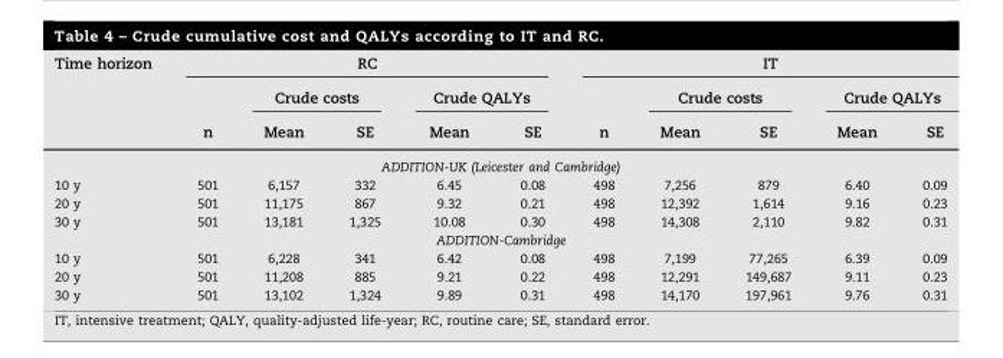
<table><thead><tr><td rowspan="3">Time horizon</td><td colspan="5">RC</td><td colspan="5">IT</td></tr><tr><td rowspan="2">n</td><td colspan="2">Crude costs</td><td colspan="2">Crude QALYs</td><td rowspan="2">n</td><td colspan="2">Crude costs</td><td colspan="2">Crude QALYs</td></tr><tr><td>Mean</td><td>SE</td><td>Mean</td><td>SE</td><td>Mean</td><td>SE</td><td>Mean</td><td>SE</td></tr></thead><tbody><tr><td colspan="11">ADDITION-UK (Leicester and Cambridge)</td></tr><tr><td>10 y</td><td>501</td><td>6,157</td><td>332</td><td>6.45</td><td>0.08</td><td>498</td><td>7,256</td><td>879</td><td>6.40</td><td>0.09</td></tr><tr><td>20 y</td><td>501</td><td>11,175</td><td>867</td><td>9.32</td><td>0.21</td><td>498</td><td>12,392</td><td>1,614</td><td>9.16</td><td>0.23</td></tr><tr><td>30 y</td><td>501</td><td>13,181</td><td>1,325</td><td>10.08</td><td>0.30</td><td>498</td><td>14,308</td><td>2,110</td><td>9.82</td><td>0.31</td></tr><tr><td colspan="11">ADDITION-Cambridge</td></tr><tr><td>10 y</td><td>501</td><td>6,228</td><td>341</td><td>6.42</td><td>0.08</td><td>498</td><td>7,199</td><td>77,265</td><td>6.39</td><td>0.09</td></tr><tr><td>20 y</td><td>501</td><td>11,208</td><td>885</td><td>9.21</td><td>0.22</td><td>498</td><td>12,291</td><td>149,687</td><td>9.11</td><td>0.23</td></tr><tr><td>30 y</td><td>501</td><td>13,102</td><td>1,324</td><td>9.89</td><td>0.31</td><td>498</td><td>14,170</td><td>197,961</td><td>9.76</td><td>0.31</td></tr></tbody></table>